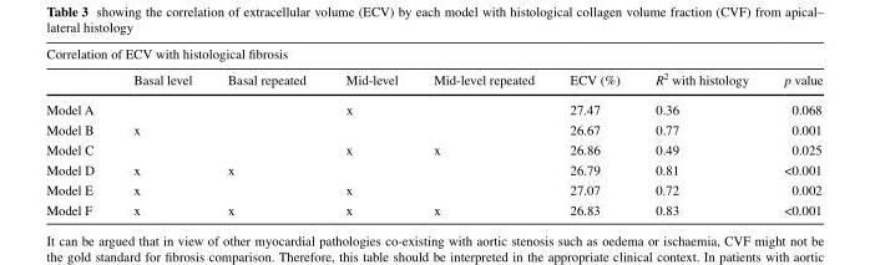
<table><thead><tr><td colspan="8">Correlation of ECV with histological fibrosis</td></tr><tr><td></td><td>Basal level</td><td>Basal repeated</td><td>Mid-level</td><td>Mid-level repeated</td><td>ECV (%)</td><td>R<sup>2</sup> with histology</td><td>p value</td></tr></thead><tbody><tr><td>Model A</td><td></td><td></td><td>x</td><td></td><td>27.47</td><td>0.36</td><td>0.068</td></tr><tr><td>Model B</td><td>x</td><td></td><td></td><td></td><td>26.67</td><td>0.77</td><td>0.001</td></tr><tr><td>Model C</td><td></td><td></td><td>x</td><td>x</td><td>26.86</td><td>0.49</td><td>0.025</td></tr><tr><td>Model D</td><td>x</td><td>x</td><td></td><td></td><td>26.79</td><td>0.81</td><td>&lt;0.001</td></tr><tr><td>Model E</td><td>x</td><td></td><td>x</td><td></td><td>27.07</td><td>0.72</td><td>0.002</td></tr><tr><td>Model F</td><td>x</td><td>x</td><td>x</td><td>x</td><td>26.83</td><td>0.83</td><td>&lt;0.001</td></tr></tbody></table>